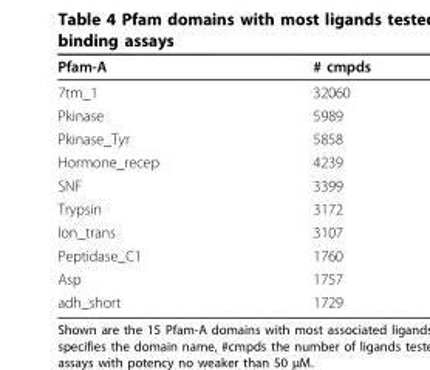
<table><thead><tr><td>Pfam-A</td><td># cmpds</td></tr></thead><tbody><tr><td>7tm_1</td><td>32060</td></tr><tr><td>Pkinase</td><td>5989</td></tr><tr><td>Pkinase_Tyr</td><td>5858</td></tr><tr><td>Hormone_recep</td><td>4239</td></tr><tr><td>SNF</td><td>3399</td></tr><tr><td>Trypsin</td><td>3172</td></tr><tr><td>Ion_trans</td><td>3107</td></tr><tr><td>Peptidase_C1</td><td>1760</td></tr><tr><td>Asp</td><td>1757</td></tr><tr><td>adh_short</td><td>1729</td></tr></tbody></table>